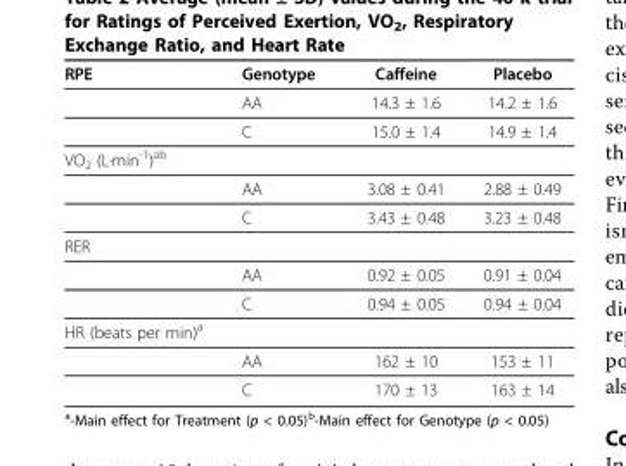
<table><thead><tr><td>RPE</td><td>Genotype</td><td>Caffeine</td><td>Placebo</td></tr></thead><tbody><tr><td></td><td>AA</td><td>14.3 ± 1.6</td><td>14.2 ± 1.6</td></tr><tr><td></td><td>C</td><td>15.0 ± 1.4</td><td>14.9 ± 1.4</td></tr><tr><td colspan="4">VO<sub>2</sub> (L·min<sup>-1</sup>)<sup>ab</sup></td></tr><tr><td></td><td>AA</td><td>3.08 ± 0.41</td><td>2.88 ± 0.49</td></tr><tr><td></td><td>C</td><td>3.43 ± 0.48</td><td>3.23 ± 0.48</td></tr><tr><td colspan="4">RER</td></tr><tr><td></td><td>AA</td><td>0.92 ± 0.05</td><td>0.91 ± 0.04</td></tr><tr><td></td><td>C</td><td>0.94 ± 0.05</td><td>0.94 ± 0.04</td></tr><tr><td colspan="4">HR (beats per min)<sup>a</sup></td></tr><tr><td></td><td>AA</td><td>162 ± 10</td><td>153 ± 11</td></tr><tr><td></td><td>C</td><td>170 ± 13</td><td>163 ± 14</td></tr></tbody></table>